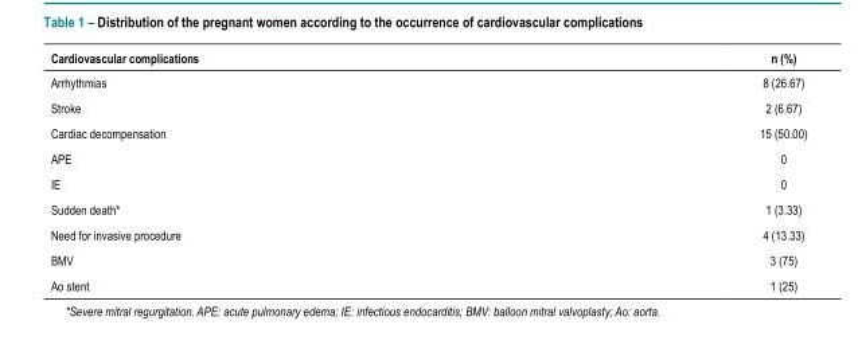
<table><thead><tr><td>Cardiovascular complications</td><td>n (%)</td></tr></thead><tbody><tr><td>Arrhythmias</td><td>8 (26.67)</td></tr><tr><td>Stroke</td><td>2 (6.67)</td></tr><tr><td>Cardiac decompensation</td><td>15 (50.00)</td></tr><tr><td>APE</td><td>0</td></tr><tr><td>IE</td><td>0</td></tr><tr><td>Sudden death*</td><td>1 (3.33)</td></tr><tr><td>Need for invasive procedure</td><td>4 (13.33)</td></tr><tr><td>BMV</td><td>3 (75)</td></tr><tr><td>Ao stent</td><td>1 (25)</td></tr></tbody></table>